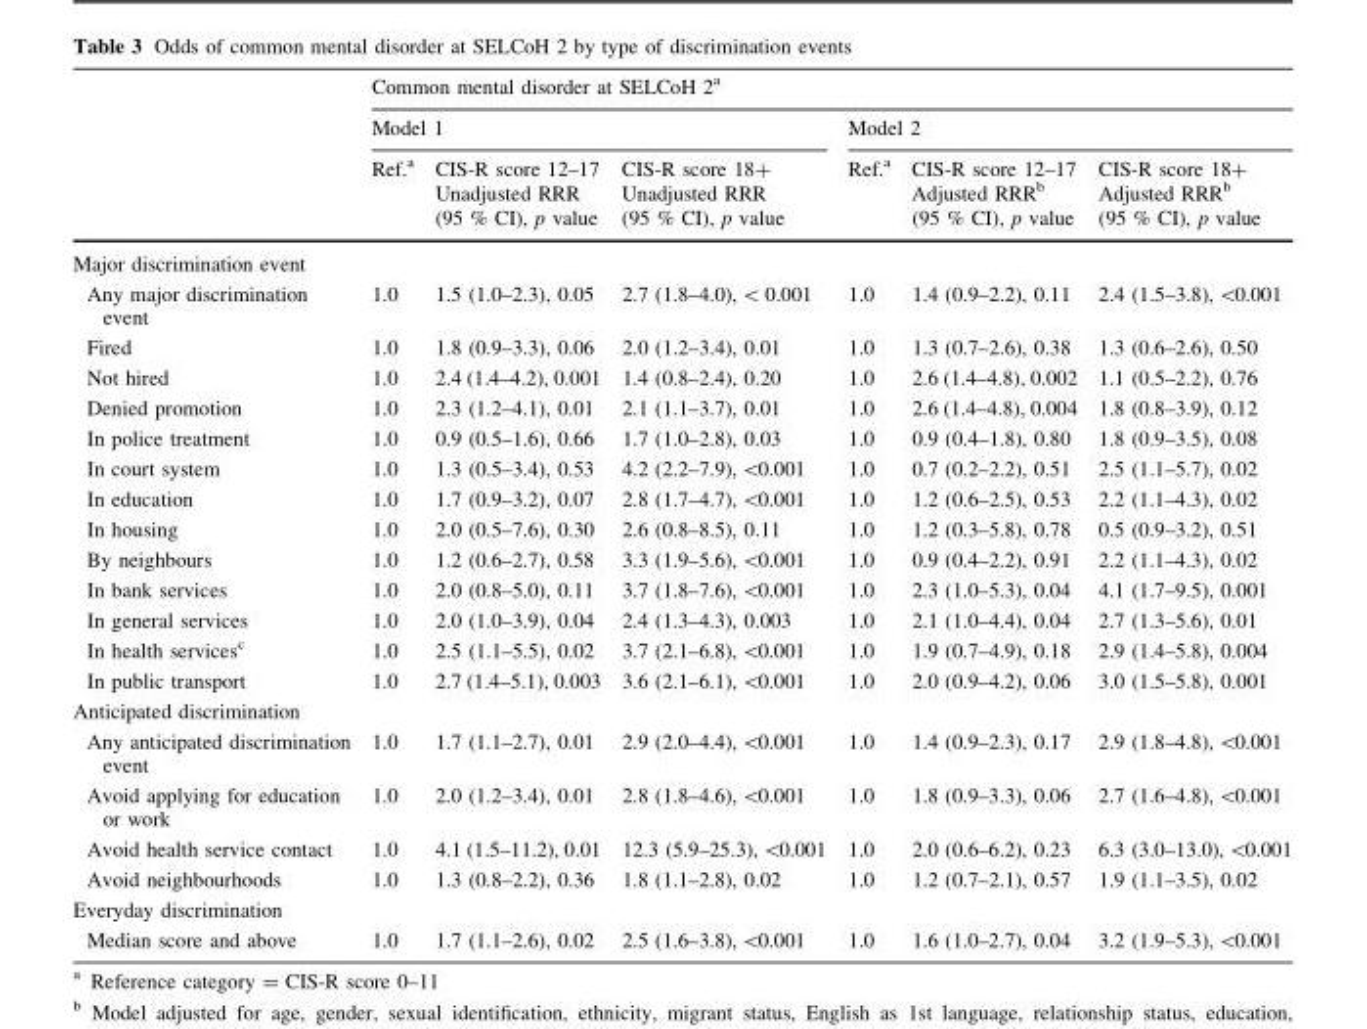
<table><thead><tr><td rowspan="4"></td><td colspan="6">Common mental disorder at SELCoH 2<sup>a</sup></td></tr><tr><td colspan="3">Model 1</td><td colspan="3">Model 2</td></tr><tr><td rowspan="2">Ref.<sup>a</sup></td><td rowspan="2">CIS-R score 12–17 Unadjusted RRR (95 % CI), p value</td><td rowspan="2">CIS-R score 18+ Unadjusted RRR (95 % CI), p value</td><td rowspan="2">Ref.<sup>a</sup></td><td rowspan="2">CIS-R score 12–17 Adjusted RRR<sup>b</sup> (95 % CI), p value</td><td rowspan="2">CIS-R score 18+ Adjusted RRR<sup>b</sup> (95 % CI), p value</td></tr><tr></tr></thead><tbody><tr><td colspan="7">Major discrimination event</td></tr><tr><td>Any major discrimination event</td><td>1.0</td><td>1.5 (1.0–2.3), 0.05</td><td>2.7 (1.8–4.0), &lt; 0.001</td><td>1.0</td><td>1.4 (0.9–2.2), 0.11</td><td>2.4 (1.5–3.8), &lt;0.001</td></tr><tr><td>Fired</td><td>1.0</td><td>1.8 (0.9–3.3), 0.06</td><td>2.0 (1.2–3.4), 0.01</td><td>1.0</td><td>1.3 (0.7–2.6), 0.38</td><td>1.3 (0.6–2.6), 0.50</td></tr><tr><td>Not hired</td><td>1.0</td><td>2.4 (1.4–4.2), 0.001</td><td>1.4 (0.8–2.4), 0.20</td><td>1.0</td><td>2.6 (1.4–4.8), 0.002</td><td>1.1 (0.5–2.2), 0.76</td></tr><tr><td>Denied promotion</td><td>1.0</td><td>2.3 (1.2–4.1), 0.01</td><td>2.1 (1.1–3.7), 0.01</td><td>1.0</td><td>2.6 (1.4–4.8), 0.004</td><td>1.8 (0.8–3.9), 0.12</td></tr><tr><td>In police treatment</td><td>1.0</td><td>0.9 (0.5–1.6), 0.66</td><td>1.7 (1.0–2.8), 0.03</td><td>1.0</td><td>0.9 (0.4–1.8), 0.80</td><td>1.8 (0.9–3.5), 0.08</td></tr><tr><td>In court system</td><td>1.0</td><td>1.3 (0.5–3.4), 0.53</td><td>4.2 (2.2–7.9), &lt;0.001</td><td>1.0</td><td>0.7 (0.2–2.2), 0.51</td><td>2.5 (1.1–5.7), 0.02</td></tr><tr><td>In education</td><td>1.0</td><td>1.7 (0.9–3.2), 0.07</td><td>2.8 (1.7–4.7), &lt;0.001</td><td>1.0</td><td>1.2 (0.6–2.5), 0.53</td><td>2.2 (1.1–4.3), 0.02</td></tr><tr><td>In housing</td><td>1.0</td><td>2.0 (0.5–7.6), 0.30</td><td>2.6 (0.8–8.5), 0.11</td><td>1.0</td><td>1.2 (0.3–5.8), 0.78</td><td>0.5 (0.9–3.2), 0.51</td></tr><tr><td>By neighbours</td><td>1.0</td><td>1.2 (0.6–2.7), 0.58</td><td>3.3 (1.9–5.6), &lt;0.001</td><td>1.0</td><td>0.9 (0.4–2.2), 0.91</td><td>2.2 (1.1–4.3), 0.02</td></tr><tr><td>In bank services</td><td>1.0</td><td>2.0 (0.8–5.0), 0.11</td><td>3.7 (1.8–7.6), &lt;0.001</td><td>1.0</td><td>2.3 (1.0–5.3), 0.04</td><td>4.1 (1.7–9.5), 0.001</td></tr><tr><td>In general services</td><td>1.0</td><td>2.0 (1.0–3.9), 0.04</td><td>2.4 (1.3–4.3), 0.003</td><td>1.0</td><td>2.1 (1.0–4.4), 0.04</td><td>2.7 (1.3–5.6), 0.01</td></tr><tr><td>In health services<sup>c</sup></td><td>1.0</td><td>2.5 (1.1–5.5), 0.02</td><td>3.7 (2.1–6.8), &lt;0.001</td><td>1.0</td><td>1.9 (0.7–4.9), 0.18</td><td>2.9 (1.4–5.8), 0.004</td></tr><tr><td>In public transport</td><td>1.0</td><td>2.7 (1.4–5.1), 0.003</td><td>3.6 (2.1–6.1), &lt;0.001</td><td>1.0</td><td>2.0 (0.9–4.2), 0.06</td><td>3.0 (1.5–5.8), 0.001</td></tr><tr><td colspan="7">Anticipated discrimination</td></tr><tr><td>Any anticipated discrimination event</td><td>1.0</td><td>1.7 (1.1–2.7), 0.01</td><td>2.9 (2.0–4.4), &lt;0.001</td><td>1.0</td><td>1.4 (0.9–2.3), 0.17</td><td>2.9 (1.8–4.8), &lt;0.001</td></tr><tr><td>Avoid applying for education or work</td><td>1.0</td><td>2.0 (1.2–3.4), 0.01</td><td>2.8 (1.8–4.6), &lt;0.001</td><td>1.0</td><td>1.8 (0.9–3.3), 0.06</td><td>2.7 (1.6–4.8), &lt;0.001</td></tr><tr><td>Avoid health service contact</td><td>1.0</td><td>4.1 (1.5–11.2), 0.01</td><td>12.3 (5.9–25.3), &lt;0.001</td><td>1.0</td><td>2.0 (0.6–6.2), 0.23</td><td>6.3 (3.0–13.0), &lt;0.001</td></tr><tr><td>Avoid neighbourhoods</td><td>1.0</td><td>1.3 (0.8–2.2), 0.36</td><td>1.8 (1.1–2.8), 0.02</td><td>1.0</td><td>1.2 (0.7–2.1), 0.57</td><td>1.9 (1.1–3.5), 0.02</td></tr><tr><td colspan="7">Everyday discrimination</td></tr><tr><td>Median score and above</td><td>1.0</td><td>1.7 (1.1–2.6), 0.02</td><td>2.5 (1.6–3.8), &lt;0.001</td><td>1.0</td><td>1.6 (1.0–2.7), 0.04</td><td>3.2 (1.9–5.3), &lt;0.001</td></tr></tbody></table>